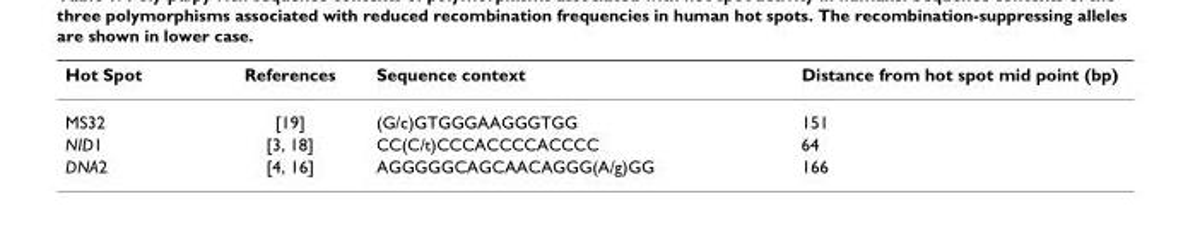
<table><thead><tr><td>Hot Spot</td><td>References</td><td>Sequence context</td><td>Distance from hot spot mid point (bp)</td></tr></thead><tbody><tr><td>MS32</td><td>[19]</td><td>(G/c)GTGGGAAGGGTGG</td><td>151</td></tr><tr><td>NID1</td><td>[3, 18]</td><td>CC(C/t)CCCACCCCACCCC</td><td>64</td></tr><tr><td>DNA2</td><td>[4, 16]</td><td>AGGGGGCAGCAACAGGG(A/g)GG</td><td>166</td></tr></tbody></table>